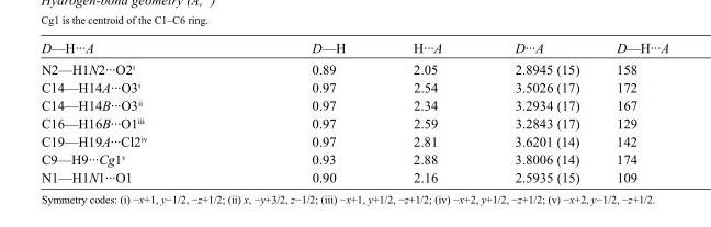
<table><tbody><tr><td>D—H···A</td><td>D—H</td><td>H···A</td><td>D···A</td><td>D—H···A</td></tr><tr><td>N2—H1N2···O2<sup>i</sup></td><td>0.89</td><td>2.05</td><td>2.8945 (15)</td><td>158</td></tr><tr><td>C14—H14A···O3<sup>i</sup></td><td>0.97</td><td>2.54</td><td>3.5026 (17)</td><td>172</td></tr><tr><td>C14—H14B···O3<sup>ii</sup></td><td>0.97</td><td>2.34</td><td>3.2934 (17)</td><td>167</td></tr><tr><td>C16—H16B···O1<sup>iii</sup></td><td>0.97</td><td>2.59</td><td>3.2843 (17)</td><td>129</td></tr><tr><td>C19—H19A···Cl2<sup>iv</sup></td><td>0.97</td><td>2.81</td><td>3.6201 (14)</td><td>142</td></tr><tr><td>C9—H9···Cg1<sup>v</sup></td><td>0.93</td><td>2.88</td><td>3.8006 (14)</td><td>174</td></tr><tr><td>N1—H1N1···O1</td><td>0.90</td><td>2.16</td><td>2.5935 (15)</td><td>109</td></tr></tbody></table>